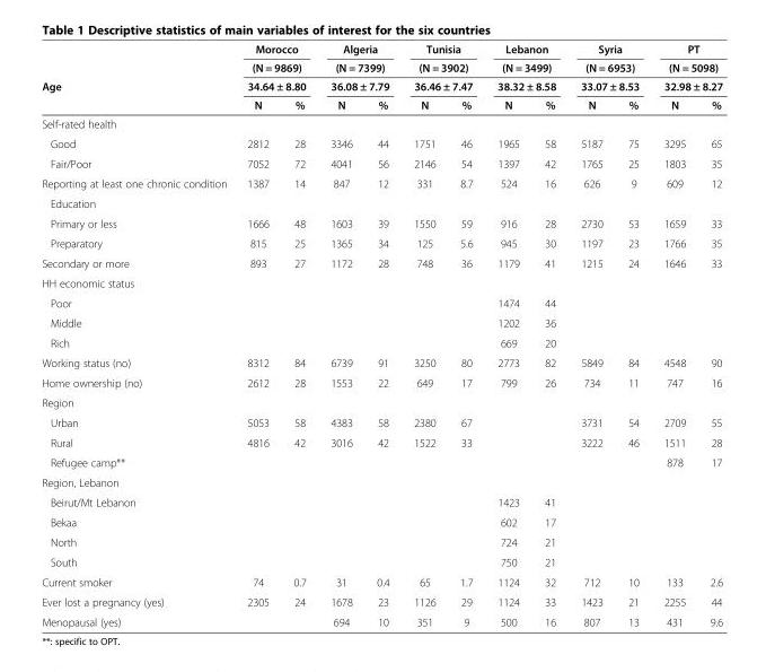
<table><thead><tr><td rowspan="4">Age</td><td rowspan="3" colspan="2">Morocco (N = 9869) 34.64 ± 8.80</td><td rowspan="3" colspan="2">Algeria (N = 7399) 36.08 ± 7.79</td><td rowspan="3" colspan="2">Tunisia (N = 3902) 36.46 ± 7.47</td><td rowspan="3" colspan="2">Lebanon (N = 3499) 38.32 ± 8.58</td><td rowspan="3" colspan="2">Syria (N = 6953) 33.07 ± 8.53</td><td rowspan="3" colspan="2">PT (N = 5098) 32.98 ± 8.27</td></tr><tr></tr><tr></tr><tr><td>N</td><td>%</td><td>N</td><td>%</td><td>N</td><td>%</td><td>N</td><td>%</td><td>N</td><td>%</td><td>N</td><td>%</td></tr></thead><tbody><tr><td colspan="13">Self-rated health</td></tr><tr><td>Good</td><td>2812</td><td>28</td><td>3346</td><td>44</td><td>1751</td><td>46</td><td>1965</td><td>58</td><td>5187</td><td>75</td><td>3295</td><td>65</td></tr><tr><td>Fair/Poor</td><td>7052</td><td>72</td><td>4041</td><td>56</td><td>2146</td><td>54</td><td>1397</td><td>42</td><td>1765</td><td>25</td><td>1803</td><td>35</td></tr><tr><td>Reporting at least one chronic condition</td><td>1387</td><td>14</td><td>847</td><td>12</td><td>331</td><td>8.7</td><td>524</td><td>16</td><td>626</td><td>9</td><td>609</td><td>12</td></tr><tr><td colspan="13">Education</td></tr><tr><td>Primary or less</td><td>1666</td><td>48</td><td>1603</td><td>39</td><td>1550</td><td>59</td><td>916</td><td>28</td><td>2730</td><td>53</td><td>1659</td><td>33</td></tr><tr><td>Preparatory</td><td>815</td><td>25</td><td>1365</td><td>34</td><td>125</td><td>5.6</td><td>945</td><td>30</td><td>1197</td><td>23</td><td>1766</td><td>35</td></tr><tr><td>Secondary or more</td><td>893</td><td>27</td><td>1172</td><td>28</td><td>748</td><td>36</td><td>1179</td><td>41</td><td>1215</td><td>24</td><td>1646</td><td>33</td></tr><tr><td colspan="13">HH economic status</td></tr><tr><td>Poor</td><td></td><td></td><td></td><td></td><td></td><td></td><td>1474</td><td>44</td><td></td><td></td><td></td><td></td></tr><tr><td>Middle</td><td></td><td></td><td></td><td></td><td></td><td></td><td>1202</td><td>36</td><td></td><td></td><td></td><td></td></tr><tr><td>Rich</td><td></td><td></td><td></td><td></td><td></td><td></td><td>669</td><td>20</td><td></td><td></td><td></td><td></td></tr><tr><td>Working status (no)</td><td>8312</td><td>84</td><td>6739</td><td>91</td><td>3250</td><td>80</td><td>2773</td><td>82</td><td>5849</td><td>84</td><td>4548</td><td>90</td></tr><tr><td>Home ownership (no)</td><td>2612</td><td>28</td><td>1553</td><td>22</td><td>649</td><td>17</td><td>799</td><td>26</td><td>734</td><td>11</td><td>747</td><td>16</td></tr><tr><td colspan="13">Region</td></tr><tr><td>Urban</td><td>5053</td><td>58</td><td>4383</td><td>58</td><td>2380</td><td>67</td><td></td><td></td><td>3731</td><td>54</td><td>2709</td><td>55</td></tr><tr><td>Rural</td><td>4816</td><td>42</td><td>3016</td><td>42</td><td>1522</td><td>33</td><td></td><td></td><td>3222</td><td>46</td><td>1511</td><td>28</td></tr><tr><td>Refugee camp**</td><td></td><td></td><td></td><td></td><td></td><td></td><td></td><td></td><td></td><td></td><td>878</td><td>17</td></tr><tr><td colspan="13">Region, Lebanon</td></tr><tr><td>Beirut/Mt Lebanon</td><td></td><td></td><td></td><td></td><td></td><td></td><td>1423</td><td>41</td><td></td><td></td><td></td><td></td></tr><tr><td>Bekaa</td><td></td><td></td><td></td><td></td><td></td><td></td><td>602</td><td>17</td><td></td><td></td><td></td><td></td></tr><tr><td>North</td><td></td><td></td><td></td><td></td><td></td><td></td><td>724</td><td>21</td><td></td><td></td><td></td><td></td></tr><tr><td>South</td><td></td><td></td><td></td><td></td><td></td><td></td><td>750</td><td>21</td><td></td><td></td><td></td><td></td></tr><tr><td>Current smoker</td><td>74</td><td>0.7</td><td>31</td><td>0.4</td><td>65</td><td>1.7</td><td>1124</td><td>32</td><td>712</td><td>10</td><td>133</td><td>2.6</td></tr><tr><td>Ever lost a pregnancy (yes)</td><td>2305</td><td>24</td><td>1678</td><td>23</td><td>1126</td><td>29</td><td>1124</td><td>33</td><td>1423</td><td>21</td><td>2255</td><td>44</td></tr><tr><td>Menopausal (yes)</td><td></td><td></td><td>694</td><td>10</td><td>351</td><td>9</td><td>500</td><td>16</td><td>807</td><td>13</td><td>431</td><td>9.6</td></tr></tbody></table>